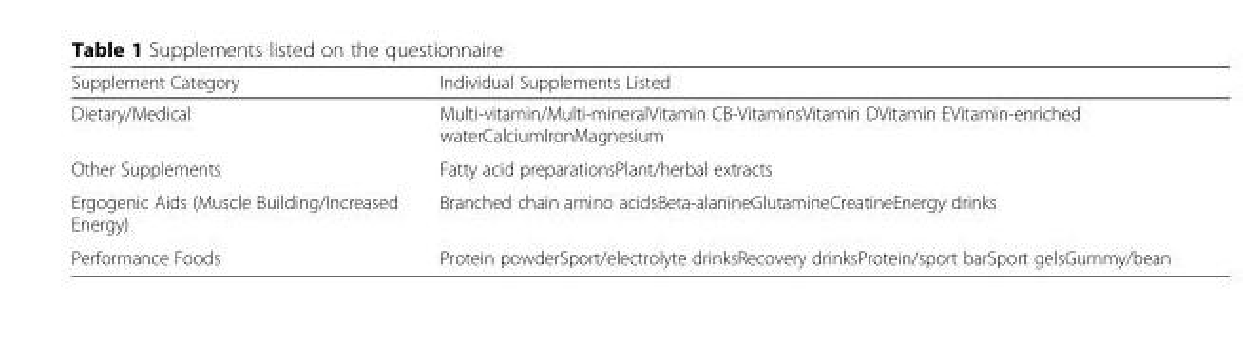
<table><thead><tr><td>Supplement Category</td><td>Individual Supplements Listed</td></tr></thead><tbody><tr><td>Dietary/Medical</td><td>Multi-vitamin/Multi-mineralVitamin CB-VitaminsVitamin DVitamin EVitamin-enriched waterCalciumIronMagnesium</td></tr><tr><td>Other Supplements</td><td>Fatty acid preparationsPlant/herbal extracts</td></tr><tr><td>Ergogenic Aids (Muscle Building/Increased Energy)</td><td>Branched chain amino acidsBeta-alanineGlutamineCreatineEnergy drinks</td></tr><tr><td>Performance Foods</td><td>Protein powderSport/electrolyte drinksRecovery drinksProtein/sport barSport gelsGummy/bean</td></tr></tbody></table>